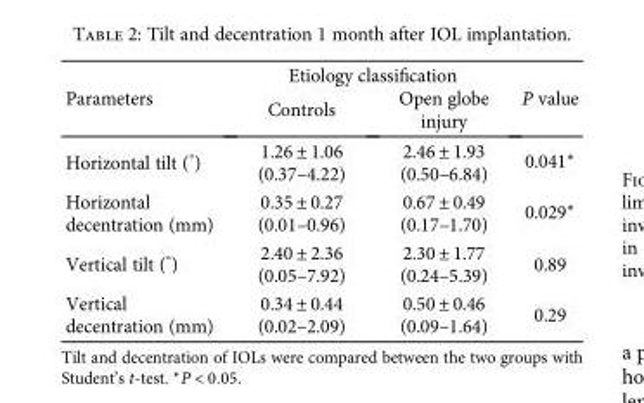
<table><thead><tr><td rowspan="2">Parameters</td><td colspan="2">Etiology classification</td><td rowspan="2">P value</td></tr><tr><td>Controls</td><td>Open globe injury</td></tr></thead><tbody><tr><td>Horizontal tilt (°)</td><td>1.26 ± 1.06 (0.37–4.22)</td><td>2.46 ± 1.93 (0.50–6.84)</td><td>0.041∗</td></tr><tr><td>Horizontal decentration (mm)</td><td>0.35 ± 0.27 (0.01–0.96)</td><td>0.67 ± 0.49 (0.17–1.70)</td><td>0.029∗</td></tr><tr><td>Vertical tilt (°)</td><td>2.40 ± 2.36 (0.05–7.92)</td><td>2.30 ± 1.77 (0.24–5.39)</td><td>0.89</td></tr><tr><td>Vertical decentration (mm)</td><td>0.34 ± 0.44 (0.02–2.09)</td><td>0.50 ± 0.46 (0.09–1.64)</td><td>0.29</td></tr></tbody></table>